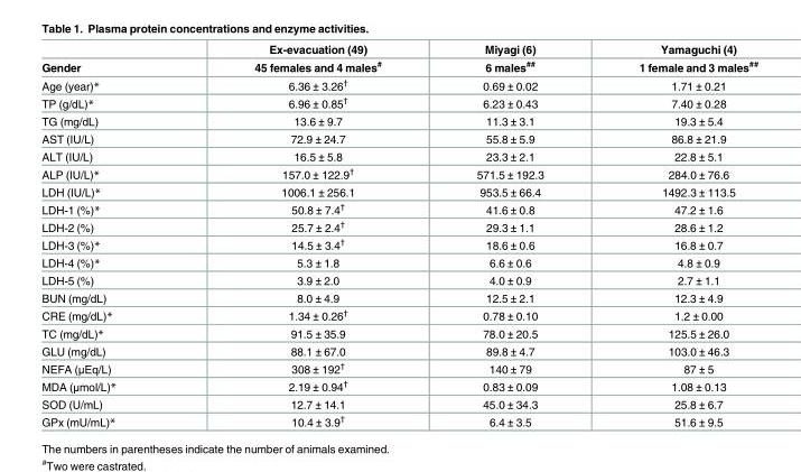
<table><thead><tr><td rowspan="2">Gender</td><td rowspan="2">Ex-evacuation (49) 45 females and 4 males<sup>#</sup></td><td rowspan="2">Miyagi (6) 6 males<sup>##</sup></td><td rowspan="2">Yamaguchi (4) 1 female and 3 males<sup>##</sup></td></tr><tr></tr></thead><tbody><tr><td>Age (year)*</td><td>6.36 ± 3.26<sup>†</sup></td><td>0.69 ± 0.02</td><td>1.71 ± 0.21</td></tr><tr><td>TP (g/dL)*</td><td>6.96 ± 0.85<sup>†</sup></td><td>6.23 ± 0.43</td><td>7.40 ± 0.28</td></tr><tr><td>TG (mg/dL)</td><td>13.6 ± 9.7</td><td>11.3 ± 3.1</td><td>19.3 ± 5.4</td></tr><tr><td>AST (IU/L)</td><td>72.9 ± 24.7</td><td>55.8 ± 5.9</td><td>86.8 ± 21.9</td></tr><tr><td>ALT (IU/L)</td><td>16.5 ± 5.8</td><td>23.3 ± 2.1</td><td>22.8 ± 5.1</td></tr><tr><td>ALP (IU/L)*</td><td>157.0 ± 122.9<sup>†</sup></td><td>571.5 ± 192.3</td><td>284.0 ± 76.6</td></tr><tr><td>LDH (IU/L)*</td><td>1006.1 ± 256.1</td><td>953.5 ± 66.4</td><td>1492.3 ± 113.5</td></tr><tr><td>LDH-1 (%)*</td><td>50.8 ± 7.4<sup>†</sup></td><td>41.6 ± 0.8</td><td>47.2 ± 1.6</td></tr><tr><td>LDH-2 (%)</td><td>25.7 ± 2.4<sup>†</sup></td><td>29.3 ± 1.1</td><td>28.6 ± 1.2</td></tr><tr><td>LDH-3 (%)*</td><td>14.5 ± 3.4<sup>†</sup></td><td>18.6 ± 0.6</td><td>16.8 ± 0.7</td></tr><tr><td>LDH-4 (%)*</td><td>5.3 ± 1.8</td><td>6.6 ± 0.6</td><td>4.8 ± 0.9</td></tr><tr><td>LDH-5 (%)</td><td>3.9 ± 2.0</td><td>4.0 ± 0.9</td><td>2.7 ± 1.1</td></tr><tr><td>BUN (mg/dL)</td><td>8.0 ± 4.9</td><td>12.5 ± 2.1</td><td>12.3 ± 4.9</td></tr><tr><td>CRE (mg/dL)*</td><td>1.34 ± 0.26<sup>†</sup></td><td>0.78 ± 0.10</td><td>1.2 ± 0.00</td></tr><tr><td>TC (mg/dL)*</td><td>91.5 ± 35.9</td><td>78.0 ± 20.5</td><td>125.5 ± 26.0</td></tr><tr><td>GLU (mg/dL)</td><td>88.1 ± 67.0</td><td>89.8 ± 4.7</td><td>103.0 ± 46.3</td></tr><tr><td>NEFA (μEq/L)</td><td>308 ± 192<sup>†</sup></td><td>140 ± 79</td><td>87 ± 5</td></tr><tr><td>MDA (μmol/L)*</td><td>2.19 ± 0.94<sup>†</sup></td><td>0.83 ± 0.09</td><td>1.08 ± 0.13</td></tr><tr><td>SOD (U/mL)</td><td>12.7 ± 14.1</td><td>45.0 ± 34.3</td><td>25.8 ± 6.7</td></tr><tr><td>GPx (mU/mL)*</td><td>10.4 ± 3.9<sup>†</sup></td><td>6.4 ± 3.5</td><td>51.6 ± 9.5</td></tr></tbody></table>